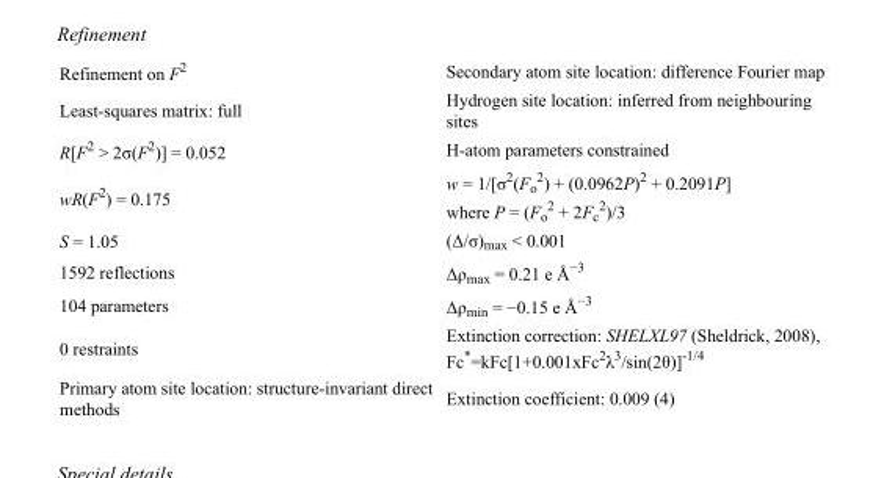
<table><tbody><tr><td>Refinement on F<sup>2</sup></td><td>Secondary atom site location: difference Fourier map</td></tr><tr><td>Least-squares matrix: full</td><td>Hydrogen site location: inferred from neighbouring sites</td></tr><tr><td>R[F<sup>2</sup> &gt; 2σ(F<sup>2</sup>)] = 0.052</td><td>H-atom parameters constrained</td></tr><tr><td>wR(F<sup>2</sup>) = 0.175</td><td>w = 1/[σ<sup>2</sup>(F<sub>o</sub> <sup>2</sup>) + (0.0962P)<sup>2</sup> + 0.2091P] where P = (F<sub>o</sub> <sup>2</sup> + 2F<sub>c</sub> <sup>2</sup>)/3</td></tr><tr><td>S = 1.05</td><td>(Δ/σ)<sub>max</sub> &lt; 0.001</td></tr><tr><td>1592 reflections</td><td>Δρ<sub>max</sub> = 0.21 e Å<sup>−3</sup></td></tr><tr><td>104 parameters</td><td>Δρ<sub>min</sub> = −0.15 e Å<sup>−3</sup></td></tr><tr><td>0 restraints</td><td>Extinction correction: SHELXL97 (Sheldrick, 2008), Fc*=kFc[1+0.001xFc<sup>2</sup>λ<sup>3</sup>/sin(2θ)]<sup>-1/4</sup></td></tr><tr><td>Primary atom site location: structure-invariant direct methods</td><td>Extinction coefficient: 0.009 (4)</td></tr></tbody></table>